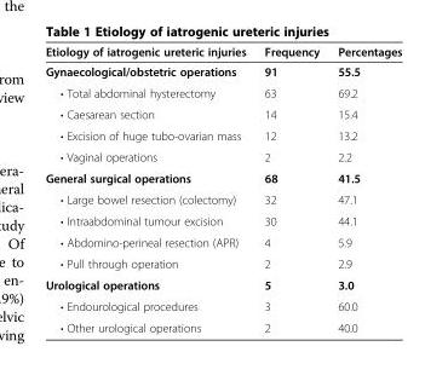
<table><thead><tr><td>Etiology of iatrogenic ureteric injuries</td><td>Frequency</td><td>Percentages</td></tr></thead><tbody><tr><td>Gynaecological/obstetric operations</td><td>91</td><td>55.5</td></tr><tr><td>• Total abdominal hysterectomy</td><td>63</td><td>69.2</td></tr><tr><td>• Caesarean section</td><td>14</td><td>15.4</td></tr><tr><td>• Excision of huge tubo-ovarian mass</td><td>12</td><td>13.2</td></tr><tr><td>• Vaginal operations</td><td>2</td><td>2.2</td></tr><tr><td>General surgical operations</td><td>68</td><td>41.5</td></tr><tr><td>• Large bowel resection (colectomy)</td><td>32</td><td>47.1</td></tr><tr><td>• Intraabdominal tumour excision</td><td>30</td><td>44.1</td></tr><tr><td>• Abdomino-perineal resection (APR)</td><td>4</td><td>5.9</td></tr><tr><td>• Pull through operation</td><td>2</td><td>2.9</td></tr><tr><td>Urological operations</td><td>5</td><td>3.0</td></tr><tr><td>• Endourological procedures</td><td>3</td><td>60.0</td></tr><tr><td>• Other urological operations</td><td>2</td><td>40.0</td></tr></tbody></table>